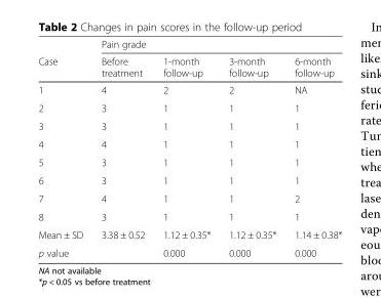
<table><thead><tr><td rowspan="2">Case</td><td colspan="4">Pain grade</td></tr><tr><td>Before treatment</td><td>1-month follow-up</td><td>3-month follow-up</td><td>6-month follow-up</td></tr></thead><tbody><tr><td>1</td><td>4</td><td>2</td><td>2</td><td>NA</td></tr><tr><td>2</td><td>3</td><td>1</td><td>1</td><td>1</td></tr><tr><td>3</td><td>3</td><td>1</td><td>1</td><td>1</td></tr><tr><td>4</td><td>4</td><td>1</td><td>1</td><td>1</td></tr><tr><td>5</td><td>3</td><td>1</td><td>1</td><td>1</td></tr><tr><td>6</td><td>3</td><td>1</td><td>1</td><td>1</td></tr><tr><td>7</td><td>4</td><td>1</td><td>1</td><td>2</td></tr><tr><td>8</td><td>3</td><td>1</td><td>1</td><td>1</td></tr><tr><td>Mean ± SD</td><td>3.38 ± 0.52</td><td>1.12 ± 0.35*</td><td>1.12 ± 0.35*</td><td>1.14 ± 0.38*</td></tr><tr><td>p value</td><td></td><td>0.000</td><td>0.000</td><td>0.000</td></tr></tbody></table>